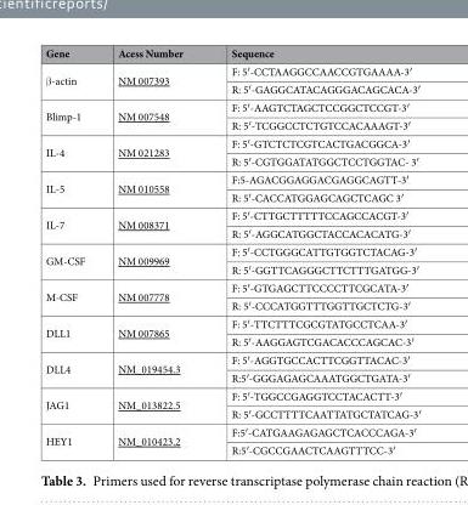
<table><thead><tr><td>Gene</td><td>Acess Number</td><td>Sequence</td></tr></thead><tbody><tr><td rowspan="2">β-actin</td><td rowspan="2">NM 007393</td><td>F: 5′-CCTAAGGCCAACCGTGAAAA-3′</td></tr><tr><td>R: 5′-GAGGCATACAGGGACAGCACA-3′</td></tr><tr><td rowspan="2">Blimp-1</td><td rowspan="2">NM 007548</td><td>F: 5′-AAGTCTAGCTCCGGCTCCGT-3′</td></tr><tr><td>R: 5′-TCGGCCTCTGTCCACAAAGT-3′</td></tr><tr><td rowspan="2">IL-4</td><td rowspan="2">NM 021283</td><td>F: 5′-GTCTCTCGTCACTGACGGCA-3′</td></tr><tr><td>R: 5′-CGTGGATATGGCTCCTGGTAC- 3′</td></tr><tr><td rowspan="2">IL-5</td><td rowspan="2">NM 010558</td><td>F:5-AGACGGAGGACGAGGCAGTT-3′</td></tr><tr><td>R: 5′-CACCATGGAGCAGCTCAGC 3′</td></tr><tr><td rowspan="2">IL-7</td><td rowspan="2">NM 008371</td><td>F: 5′-CTTGCTTTTTCCAGCCACGT-3′</td></tr><tr><td>R: 5′-AGGCATGGCTACCACACATG-3′</td></tr><tr><td rowspan="2">GM-CSF</td><td rowspan="2">NM 009969</td><td>F: 5′-CCTGGGCATTGTGGTCTACAG-3′</td></tr><tr><td>R: 5′-GGTTCAGGGCTTCTTTGATGG-3′</td></tr><tr><td rowspan="2">M-CSF</td><td rowspan="2">NM 007778</td><td>F: 5′-GTGAGCTTCCCCTTCGCATA-3′</td></tr><tr><td>R: 5′-CCCATGGTTTGGTTGCTCTG-3′</td></tr><tr><td rowspan="2">DLL1</td><td rowspan="2">NM 007865</td><td>F: 5′-TTCTTTCGCGTATGCCTCAA-3′</td></tr><tr><td>R: 5′-AAGGAGTCGACACCCAGCAC-3′</td></tr><tr><td rowspan="2">DLL4</td><td rowspan="2">NM_019454.3</td><td>F: 5′-AGGTGCCACTTCGGTTACAC-3′</td></tr><tr><td>R:5′-GGGAGAGCAAATGGCTGATA-3′</td></tr><tr><td rowspan="2">JAG1</td><td rowspan="2">NM_013822.5</td><td>F: 5′-TGGCCGAGGTCCTACACTT-3′</td></tr><tr><td>R: 5′-GCCTTTTCAATTATGCTATCAG-3′</td></tr><tr><td rowspan="2">HEY1</td><td rowspan="2">NM_010423.2</td><td>F:5′-CATGAAGAGAGCTCACCCAGA-3′</td></tr><tr><td>R:5′-CGCCGAACTCAAGTTTCC-3′</td></tr></tbody></table>